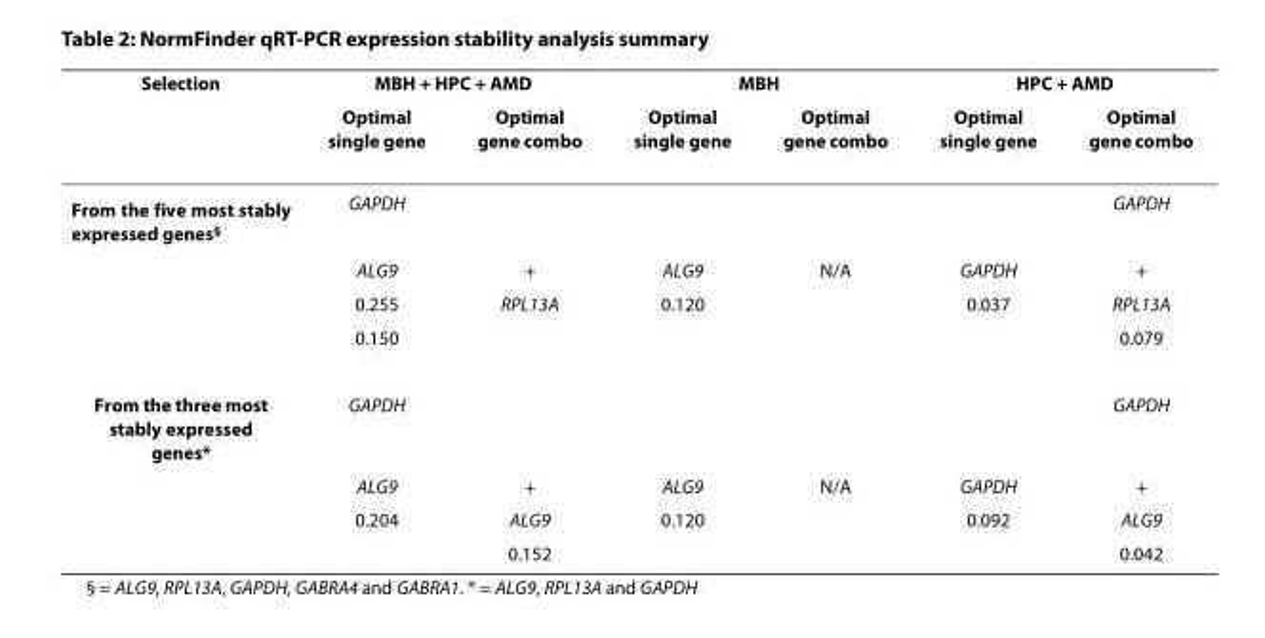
<table><thead><tr><td rowspan="2">Selection</td><td colspan="2">MBH + HPC + AMD</td><td colspan="2">MBH</td><td colspan="2">HPC + AMD</td></tr><tr><td>Optimal single gene</td><td>Optimal gene combo</td><td>Optimal single gene</td><td>Optimal gene combo</td><td>Optimal single gene</td><td>Optimal gene combo</td></tr></thead><tbody><tr><td rowspan="4">From the five most stably expressed genes<sup>§</sup></td><td>GAPDH</td><td></td><td></td><td></td><td></td><td>GAPDH</td></tr><tr><td>ALG9</td><td>+</td><td>ALG9</td><td>N/A</td><td>GAPDH</td><td>+</td></tr><tr><td>0.255</td><td>RPL13A</td><td>0.120</td><td></td><td>0.037</td><td>RPL13A</td></tr><tr><td>0.150</td><td></td><td></td><td></td><td></td><td>0.079</td></tr><tr><td rowspan="4">From the three most stably expressed genes*</td><td>GAPDH</td><td></td><td></td><td></td><td></td><td>GAPDH</td></tr><tr><td>ALG9</td><td>+</td><td>ALG9</td><td>N/A</td><td>GAPDH</td><td>+</td></tr><tr><td>0.204</td><td>ALG9</td><td>0.120</td><td></td><td>0.092</td><td>ALG9</td></tr><tr><td></td><td>0.152</td><td></td><td></td><td></td><td>0.042</td></tr></tbody></table>